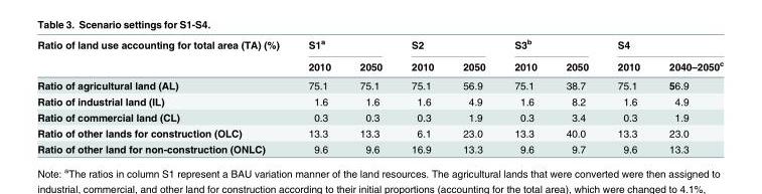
<table><thead><tr><td rowspan="2">Ratio of land use accounting for total area (TA) (%)</td><td colspan="2">S1<sup>a</sup></td><td colspan="2">S2</td><td colspan="2">S3<sup>b</sup></td><td colspan="2">S4</td></tr><tr><td>2010</td><td>2050</td><td>2010</td><td>2050</td><td>2010</td><td>2050</td><td>2010</td><td>2040–2050<sup>c</sup></td></tr></thead><tbody><tr><td>Ratio of agricultural land (AL)</td><td>75.1</td><td>75.1</td><td>75.1</td><td>56.9</td><td>75.1</td><td>38.7</td><td>75.1</td><td>56.9</td></tr><tr><td>Ratio of industrial land (IL)</td><td>1.6</td><td>1.6</td><td>1.6</td><td>4.9</td><td>1.6</td><td>8.2</td><td>1.6</td><td>4.9</td></tr><tr><td>Ratio of commercial land (CL)</td><td>0.3</td><td>0.3</td><td>0.3</td><td>1.9</td><td>0.3</td><td>3.4</td><td>0.3</td><td>1.9</td></tr><tr><td>Ratio of other lands for construction (OLC)</td><td>13.3</td><td>13.3</td><td>6.1</td><td>23.0</td><td>13.3</td><td>40.0</td><td>13.3</td><td>23.0</td></tr><tr><td>Ratio of other land for non-construction (ONLC)</td><td>9.6</td><td>9.6</td><td>16.9</td><td>13.3</td><td>9.6</td><td>9.7</td><td>9.6</td><td>13.3</td></tr></tbody></table>